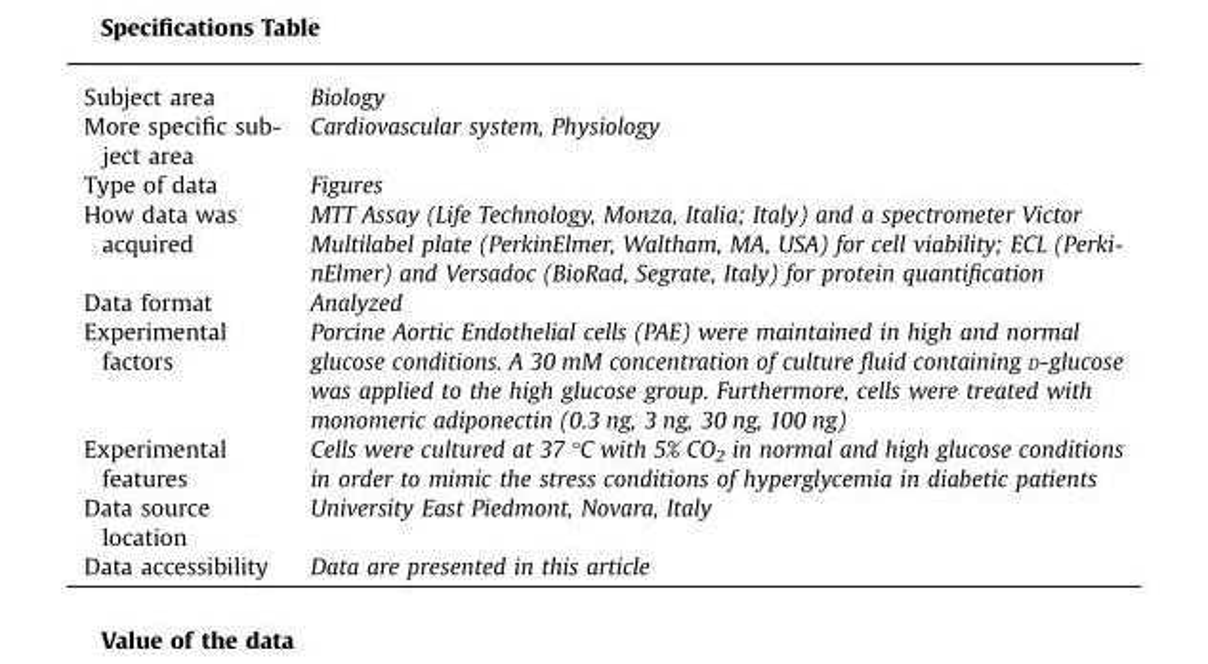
<table><tbody><tr><td>Subject area</td><td>Biology</td></tr><tr><td>More specific sub- ject area</td><td>Cardiovascular system, Physiology</td></tr><tr><td>Type of data</td><td>Figures</td></tr><tr><td>How data was acquired</td><td>MTT Assay (Life Technology, Monza, Italia; Italy) and a spectrometer Victor Multilabel plate (PerkinElmer, Waltham, MA, USA) for cell viability; ECL (Perki- nElmer) and Versadoc (BioRad, Segrate, Italy) for protein quantification</td></tr><tr><td>Data format</td><td>Analyzed</td></tr><tr><td>Experimental factors</td><td>Porcine Aortic Endothelial cells (PAE) were maintained in high and normal glucose conditions. A 30 mM concentration of culture fluid containing D-glucose was applied to the high glucose group. Furthermore, cells were treated with monomeric adiponectin (0.3 ng, 3 ng, 30 ng, 100 ng)</td></tr><tr><td>Experimental features</td><td>Cells were cultured at 37 °C with 5% CO<sub>2</sub> in normal and high glucose conditions in order to mimic the stress conditions of hyperglycemia in diabetic patients</td></tr><tr><td>Data source location</td><td>University East Piedmont, Novara, Italy</td></tr><tr><td>Data accessibility</td><td>Data are presented in this article</td></tr></tbody></table>